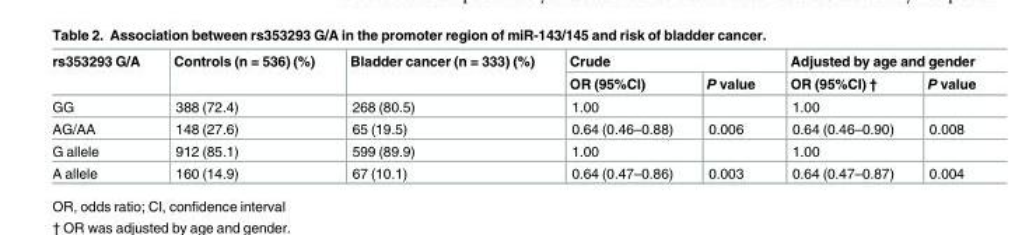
<table><thead><tr><td rowspan="2">rs353293 G/A</td><td rowspan="2">Controls (n = 536) (%)</td><td rowspan="2">Bladder cancer (n = 333) (%)</td><td colspan="2">Crude</td><td colspan="2">Adjusted by age and gender</td></tr><tr><td>OR (95%CI)</td><td>P value</td><td>OR (95%CI) †</td><td>P value</td></tr></thead><tbody><tr><td>GG</td><td>388 (72.4)</td><td>268 (80.5)</td><td>1.00</td><td></td><td>1.00</td><td></td></tr><tr><td>AG/AA</td><td>148 (27.6)</td><td>65 (19.5)</td><td>0.64 (0.46–0.88)</td><td>0.006</td><td>0.64 (0.46–0.90)</td><td>0.008</td></tr><tr><td>G allele</td><td>912 (85.1)</td><td>599 (89.9)</td><td>1.00</td><td></td><td>1.00</td><td></td></tr><tr><td>A allele</td><td>160 (14.9)</td><td>67 (10.1)</td><td>0.64 (0.47–0.86)</td><td>0.003</td><td>0.64 (0.47–0.87)</td><td>0.004</td></tr></tbody></table>